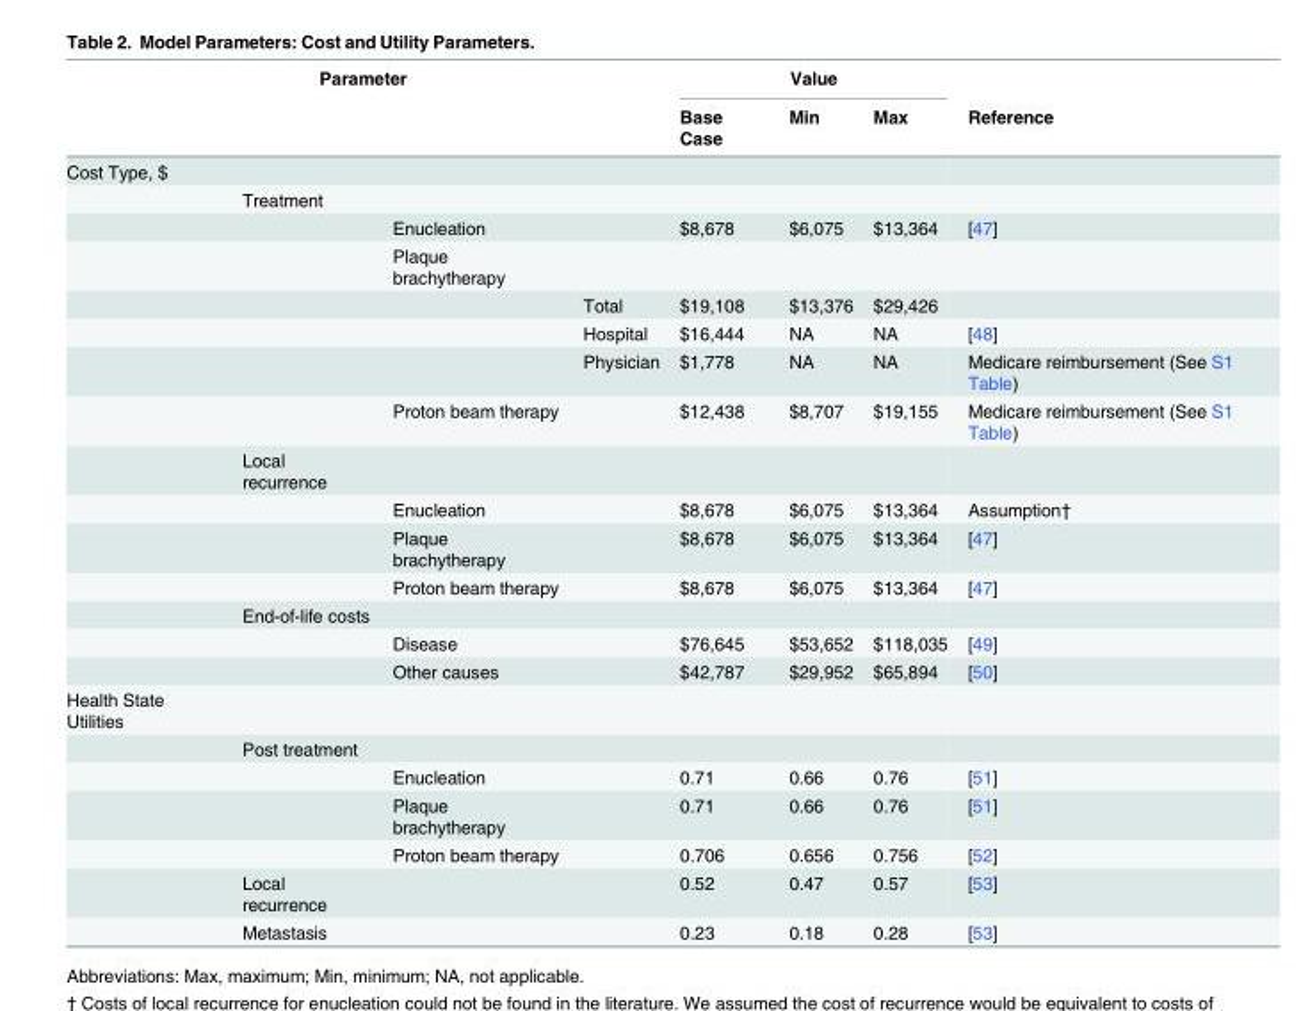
<table><thead><tr><td rowspan="2" colspan="4">Parameter</td><td colspan="3">Value</td><td rowspan="3">Reference</td></tr><tr><td rowspan="2">Base Case</td><td rowspan="2">Min</td><td rowspan="2">Max</td></tr><tr><td>Cost Type, $</td><td></td><td></td><td></td></tr></thead><tbody><tr><td></td><td>Treatment</td><td></td><td></td><td></td><td></td><td></td><td></td></tr><tr><td></td><td></td><td>Enucleation</td><td></td><td>$8,678</td><td>$6,075</td><td>$13,364</td><td>[47]</td></tr><tr><td></td><td></td><td>Plaque brachytherapy</td><td></td><td></td><td></td><td></td><td></td></tr><tr><td></td><td></td><td></td><td>Total</td><td>$19,108</td><td>$13,376</td><td>$29,426</td><td></td></tr><tr><td></td><td></td><td></td><td>Hospital</td><td>$16,444</td><td>NA</td><td>NA</td><td>[48]</td></tr><tr><td></td><td></td><td></td><td>Physician</td><td>$1,778</td><td>NA</td><td>NA</td><td>Medicare reimbursement (See S1 Table)</td></tr><tr><td></td><td></td><td>Proton beam therapy</td><td></td><td>$12,438</td><td>$8,707</td><td>$19,155</td><td>Medicare reimbursement (See S1 Table)</td></tr><tr><td></td><td>Local recurrence</td><td></td><td></td><td></td><td></td><td></td><td></td></tr><tr><td></td><td></td><td>Enucleation</td><td></td><td>$8,678</td><td>$6,075</td><td>$13,364</td><td>Assumption†</td></tr><tr><td></td><td></td><td>Plaque brachytherapy</td><td></td><td>$8,678</td><td>$6,075</td><td>$13,364</td><td>[47]</td></tr><tr><td></td><td></td><td>Proton beam therapy</td><td></td><td>$8,678</td><td>$6,075</td><td>$13,364</td><td>[47]</td></tr><tr><td></td><td>End-of-life costs</td><td></td><td></td><td></td><td></td><td></td><td></td></tr><tr><td></td><td></td><td>Disease</td><td></td><td>$76,645</td><td>$53,652</td><td>$118,035</td><td>[49]</td></tr><tr><td></td><td></td><td>Other causes</td><td></td><td>$42,787</td><td>$29,952</td><td>$65,894</td><td>[50]</td></tr><tr><td colspan="8">Health State Utilities</td></tr><tr><td></td><td>Post treatment</td><td></td><td></td><td></td><td></td><td></td><td></td></tr><tr><td></td><td></td><td>Enucleation</td><td></td><td>0.71</td><td>0.66</td><td>0.76</td><td>[51]</td></tr><tr><td></td><td></td><td>Plaque brachytherapy</td><td></td><td>0.71</td><td>0.66</td><td>0.76</td><td>[51]</td></tr><tr><td></td><td></td><td>Proton beam therapy</td><td></td><td>0.706</td><td>0.656</td><td>0.756</td><td>[52]</td></tr><tr><td></td><td>Local recurrence</td><td></td><td></td><td>0.52</td><td>0.47</td><td>0.57</td><td>[53]</td></tr><tr><td></td><td>Metastasis</td><td></td><td></td><td>0.23</td><td>0.18</td><td>0.28</td><td>[53]</td></tr></tbody></table>